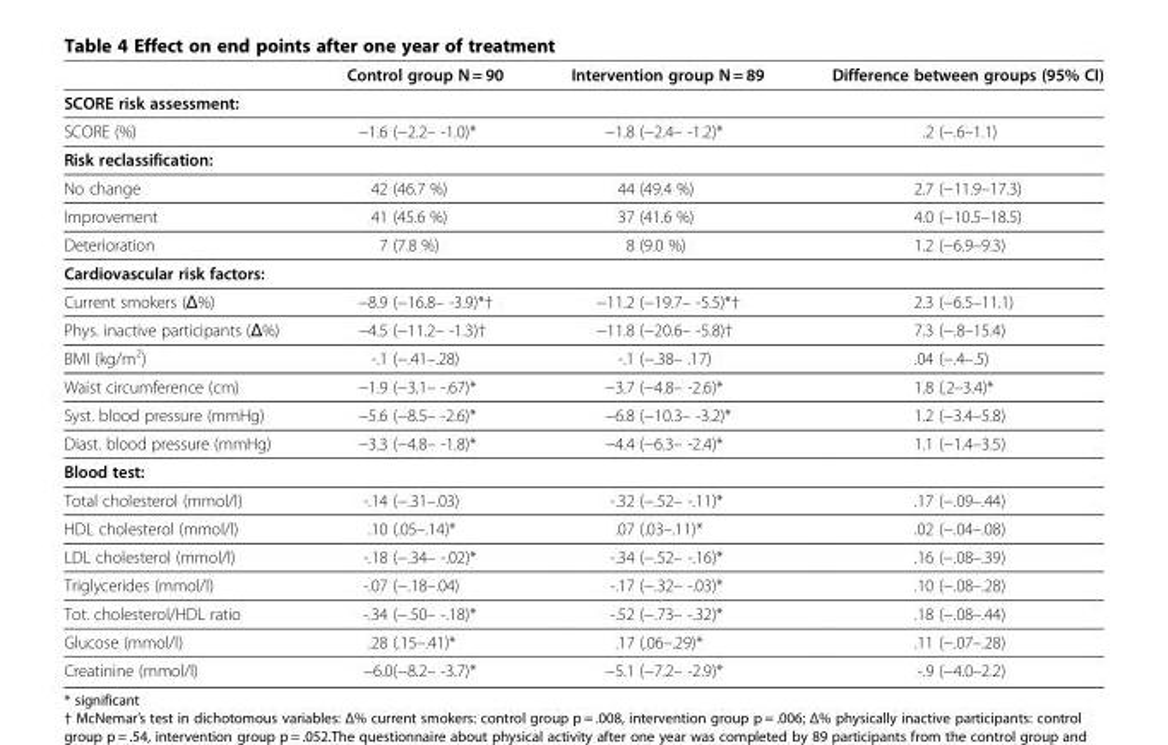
<table><thead><tr><td></td><td>Control group N = 90</td><td>Intervention group N = 89</td><td>Difference between groups (95% CI)</td></tr></thead><tbody><tr><td colspan="4">SCORE risk assessment:</td></tr><tr><td>SCORE (%)</td><td>−1.6 (−2.2– -1.0)*</td><td>−1.8 (−2.4– -1.2)*</td><td>.2 (−.6–1.1)</td></tr><tr><td colspan="4">Risk reclassification:</td></tr><tr><td>No change</td><td>42 (46.7 %)</td><td>44 (49.4 %)</td><td>2.7 (−11.9–17.3)</td></tr><tr><td>Improvement</td><td>41 (45.6 %)</td><td>37 (41.6 %)</td><td>4.0 (−10.5–18.5)</td></tr><tr><td>Deterioration</td><td>7 (7.8 %)</td><td>8 (9.0 %)</td><td>1.2 (−6.9–9.3)</td></tr><tr><td colspan="4">Cardiovascular risk factors:</td></tr><tr><td>Current smokers (Δ%)</td><td>−8.9 (−16.8– -3.9)*†</td><td>−11.2 (−19.7– -5.5)*†</td><td>2.3 (−6.5–11.1)</td></tr><tr><td>Phys. inactive participants (Δ%)</td><td>−4.5 (−11.2– -1.3)†</td><td>−11.8 (−20.6– -5.8)†</td><td>7.3 (−.8–15.4)</td></tr><tr><td>BMI (kg/m<sup>2</sup>)</td><td>-.1 (−.41–.28)</td><td>-.1 (−.38– .17)</td><td>.04 (−.4–.5)</td></tr><tr><td>Waist circumference (cm)</td><td>−1.9 (−3.1– -.67)*</td><td>−3.7 (−4.8– -2.6)*</td><td>1.8 (.2–3.4)*</td></tr><tr><td>Syst. blood pressure (mmHg)</td><td>−5.6 (−8.5– -2.6)*</td><td>−6.8 (−10.3– -3.2)*</td><td>1.2 (−3.4–5.8)</td></tr><tr><td>Diast. blood pressure (mmHg)</td><td>−3.3 (−4.8– -1.8)*</td><td>−4.4 (−6.3– -2.4)*</td><td>1.1 (−1.4–3.5)</td></tr><tr><td colspan="4">Blood test:</td></tr><tr><td>Total cholesterol (mmol/l)</td><td>-.14 (−.31–.03)</td><td>-.32 (−.52– -.11)*</td><td>.17 (−.09–.44)</td></tr><tr><td>HDL cholesterol (mmol/l)</td><td>.10 (.05–.14)*</td><td>.07 (.03–.11)*</td><td>.02 (−.04–.08)</td></tr><tr><td>LDL cholesterol (mmol/l)</td><td>-.18 (−.34– -.02)*</td><td>-.34 (−.52– -.16)*</td><td>.16 (−.08–.39)</td></tr><tr><td>Triglycerides (mmol/l)</td><td>-.07 (−.18–.04)</td><td>-.17 (−.32– -.03)*</td><td>.10 (−.08–.28)</td></tr><tr><td>Tot. cholesterol/HDL ratio</td><td>-.34 (−.50– -.18)*</td><td>-.52 (−.73– -.32)*</td><td>.18 (−.08–.44)</td></tr><tr><td>Glucose (mmol/l)</td><td>.28 (.15–.41)*</td><td>.17 (.06–.29)*</td><td>.11 (−.07–.28)</td></tr><tr><td>Creatinine (mmol/l)</td><td>−6.0(−8.2– -3.7)*</td><td>−5.1 (−7.2– -2.9)*</td><td>-.9 (−4.0–2.2)</td></tr></tbody></table>